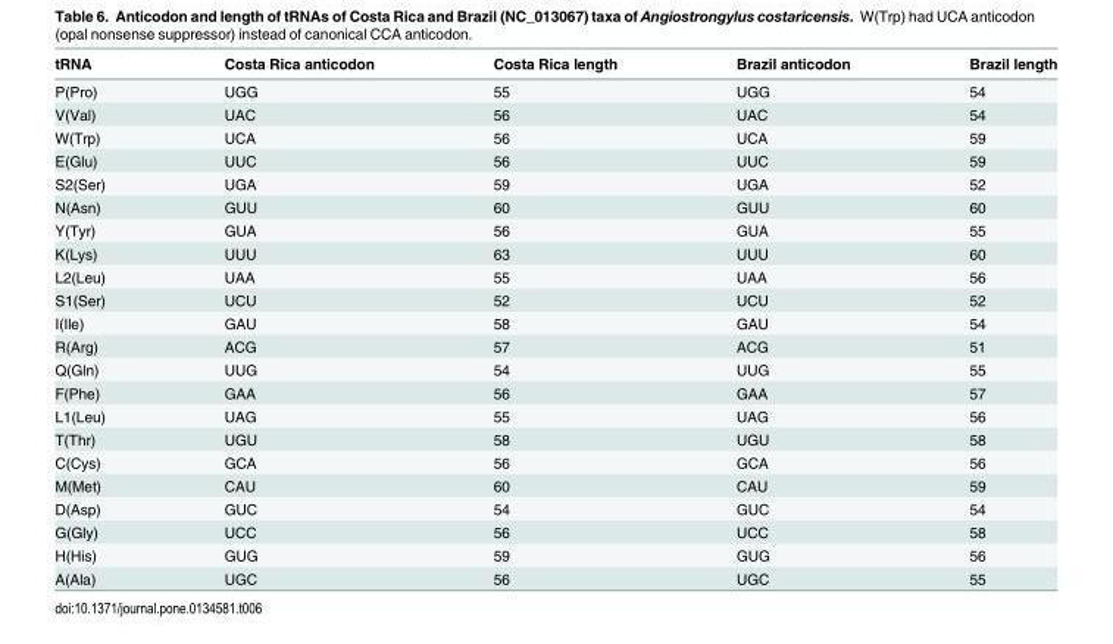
<table><thead><tr><td>tRNA</td><td>Costa Rica anticodon</td><td>Costa Rica length</td><td>Brazil anticodon</td><td>Brazil length</td></tr></thead><tbody><tr><td>P(Pro)</td><td>UGG</td><td>55</td><td>UGG</td><td>54</td></tr><tr><td>V(Val)</td><td>UAC</td><td>56</td><td>UAC</td><td>54</td></tr><tr><td>W(Trp)</td><td>UCA</td><td>56</td><td>UCA</td><td>59</td></tr><tr><td>E(Glu)</td><td>UUC</td><td>56</td><td>UUC</td><td>59</td></tr><tr><td>S2(Ser)</td><td>UGA</td><td>59</td><td>UGA</td><td>52</td></tr><tr><td>N(Asn)</td><td>GUU</td><td>60</td><td>GUU</td><td>60</td></tr><tr><td>Y(Tyr)</td><td>GUA</td><td>56</td><td>GUA</td><td>55</td></tr><tr><td>K(Lys)</td><td>UUU</td><td>63</td><td>UUU</td><td>60</td></tr><tr><td>L2(Leu)</td><td>UAA</td><td>55</td><td>UAA</td><td>56</td></tr><tr><td>S1(Ser)</td><td>UCU</td><td>52</td><td>UCU</td><td>52</td></tr><tr><td>I(Ile)</td><td>GAU</td><td>58</td><td>GAU</td><td>54</td></tr><tr><td>R(Arg)</td><td>ACG</td><td>57</td><td>ACG</td><td>51</td></tr><tr><td>Q(Gln)</td><td>UUG</td><td>54</td><td>UUG</td><td>55</td></tr><tr><td>F(Phe)</td><td>GAA</td><td>56</td><td>GAA</td><td>57</td></tr><tr><td>L1(Leu)</td><td>UAG</td><td>55</td><td>UAG</td><td>56</td></tr><tr><td>T(Thr)</td><td>UGU</td><td>58</td><td>UGU</td><td>58</td></tr><tr><td>C(Cys)</td><td>GCA</td><td>56</td><td>GCA</td><td>56</td></tr><tr><td>M(Met)</td><td>CAU</td><td>60</td><td>CAU</td><td>59</td></tr><tr><td>D(Asp)</td><td>GUC</td><td>54</td><td>GUC</td><td>54</td></tr><tr><td>G(Gly)</td><td>UCC</td><td>56</td><td>UCC</td><td>58</td></tr><tr><td>H(His)</td><td>GUG</td><td>59</td><td>GUG</td><td>56</td></tr><tr><td>A(Ala)</td><td>UGC</td><td>56</td><td>UGC</td><td>55</td></tr></tbody></table>